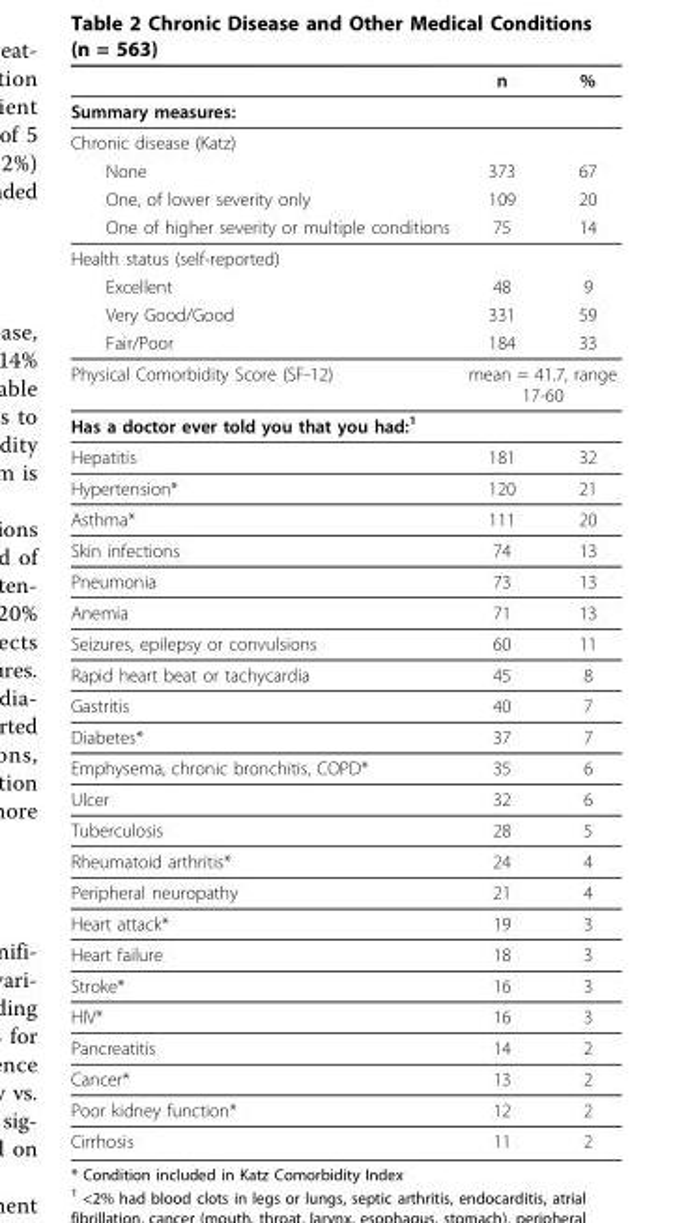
<table><thead><tr><td></td><td>n</td><td>%</td></tr></thead><tbody><tr><td colspan="3">Summary measures:</td></tr><tr><td colspan="3">Chronic disease (Katz)</td></tr><tr><td>None</td><td>373</td><td>67</td></tr><tr><td>One, of lower severity only</td><td>109</td><td>20</td></tr><tr><td>One of higher severity or multiple conditions</td><td>75</td><td>14</td></tr><tr><td colspan="3">Health status (self-reported)</td></tr><tr><td>Excellent</td><td>48</td><td>9</td></tr><tr><td>Very Good/Good</td><td>331</td><td>59</td></tr><tr><td>Fair/Poor</td><td>184</td><td>33</td></tr><tr><td>Physical Comorbidity Score (SF-12)</td><td colspan="2">mean = 41.7, range 17-60</td></tr><tr><td colspan="3">Has a doctor ever told you that you had:<sup>1</sup></td></tr><tr><td>Hepatitis</td><td>181</td><td>32</td></tr><tr><td>Hypertension*</td><td>120</td><td>21</td></tr><tr><td>Asthma*</td><td>111</td><td>20</td></tr><tr><td>Skin infections</td><td>74</td><td>13</td></tr><tr><td>Pneumonia</td><td>73</td><td>13</td></tr><tr><td>Anemia</td><td>71</td><td>13</td></tr><tr><td>Seizures, epilepsy or convulsions</td><td>60</td><td>11</td></tr><tr><td>Rapid heart beat or tachycardia</td><td>45</td><td>8</td></tr><tr><td>Gastritis</td><td>40</td><td>7</td></tr><tr><td>Diabetes*</td><td>37</td><td>7</td></tr><tr><td>Emphysema, chronic bronchitis, COPD*</td><td>35</td><td>6</td></tr><tr><td>Ulcer</td><td>32</td><td>6</td></tr><tr><td>Tuberculosis</td><td>28</td><td>5</td></tr><tr><td>Rheumatoid arthritis*</td><td>24</td><td>4</td></tr><tr><td>Peripheral neuropathy</td><td>21</td><td>4</td></tr><tr><td>Heart attack*</td><td>19</td><td>3</td></tr><tr><td>Heart failure</td><td>18</td><td>3</td></tr><tr><td>Stroke*</td><td>16</td><td>3</td></tr><tr><td>HIV*</td><td>16</td><td>3</td></tr><tr><td>Pancreatitis</td><td>14</td><td>2</td></tr><tr><td>Cancer*</td><td>13</td><td>2</td></tr><tr><td>Poor kidney function*</td><td>12</td><td>2</td></tr><tr><td>Cirrhosis</td><td>11</td><td>2</td></tr></tbody></table>